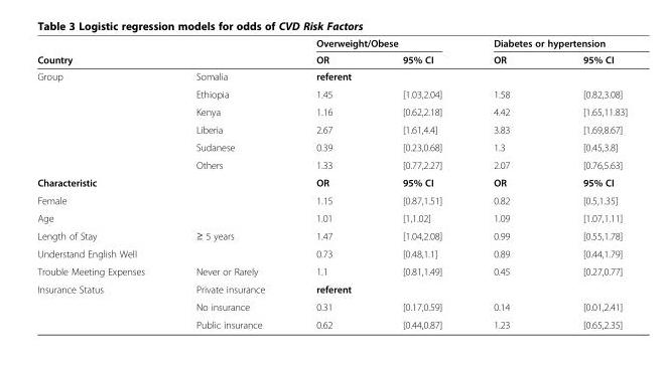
<table><thead><tr><td rowspan="2">Country</td><td rowspan="2"></td><td colspan="2">Overweight/Obese</td><td colspan="2">Diabetes or hypertension</td></tr><tr><td>OR</td><td>95% CI</td><td>OR</td><td>95% CI</td></tr></thead><tbody><tr><td rowspan="6">Group</td><td>Somalia</td><td>referent</td><td></td><td></td><td></td></tr><tr><td>Ethiopia</td><td>1.45</td><td>[1.03,2.04]</td><td>1.58</td><td>[0.82,3.08]</td></tr><tr><td>Kenya</td><td>1.16</td><td>[0.62,2.18]</td><td>4.42</td><td>[1.65,11.83]</td></tr><tr><td>Liberia</td><td>2.67</td><td>[1.61,4.4]</td><td>3.83</td><td>[1.69,8.67]</td></tr><tr><td>Sudanese</td><td>0.39</td><td>[0.23,0.68]</td><td>1.3</td><td>[0.45,3.8]</td></tr><tr><td>Others</td><td>1.33</td><td>[0.77,2.27]</td><td>2.07</td><td>[0.76,5.63]</td></tr><tr><td>Characteristic</td><td></td><td>OR</td><td>95% CI</td><td>OR</td><td>95% CI</td></tr><tr><td>Female</td><td></td><td>1.15</td><td>[0.87,1.51]</td><td>0.82</td><td>[0.5,1.35]</td></tr><tr><td>Age</td><td></td><td>1.01</td><td>[1,1.02]</td><td>1.09</td><td>[1.07,1.11]</td></tr><tr><td>Length of Stay</td><td>≥ 5 years</td><td>1.47</td><td>[1.04,2.08]</td><td>0.99</td><td>[0.55,1.78]</td></tr><tr><td>Understand English Well</td><td></td><td>0.73</td><td>[0.48,1.1]</td><td>0.89</td><td>[0.44,1.79]</td></tr><tr><td>Trouble Meeting Expenses</td><td>Never or Rarely</td><td>1.1</td><td>[0.81,1.49]</td><td>0.45</td><td>[0.27,0.77]</td></tr><tr><td rowspan="3">Insurance Status</td><td>Private insurance</td><td>referent</td><td></td><td></td><td></td></tr><tr><td>No insurance</td><td>0.31</td><td>[0.17,0.59]</td><td>0.14</td><td>[0.01,2.41]</td></tr><tr><td>Public insurance</td><td>0.62</td><td>[0.44,0.87]</td><td>1.23</td><td>[0.65,2.35]</td></tr></tbody></table>